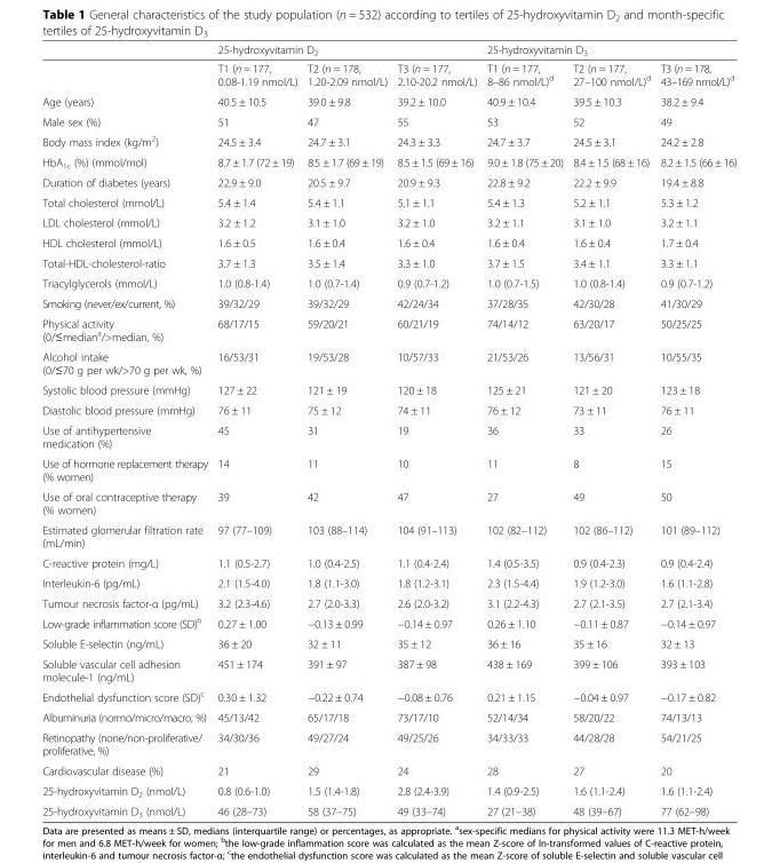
<table><thead><tr><td rowspan="2"></td><td colspan="3">25-hydroxyvitamin D<sub>2</sub></td><td colspan="3">25-hydroxyvitamin D<sub>3</sub></td></tr><tr><td>T1 (n = 177, 0.08-1.19 nmol/L)</td><td>T2 (n = 178, 1.20-2.09 nmol/L)</td><td>T3 (n = 177, 2.10-20.2 nmol/L)</td><td>T1 (n = 177, 8–86 nmol/L)<sup>d</sup></td><td>T2 (n = 177, 27–100 nmol/L)<sup>d</sup></td><td>T3 (n = 178, 43–169 nmol/L)<sup>d</sup></td></tr></thead><tbody><tr><td>Age (years)</td><td>40.5 ± 10.5</td><td>39.0 ± 9.8</td><td>39.2 ± 10.0</td><td>40.9 ± 10.4</td><td>39.5 ± 10.3</td><td>38.2 ± 9.4</td></tr><tr><td>Male sex (%)</td><td>51</td><td>47</td><td>55</td><td>53</td><td>52</td><td>49</td></tr><tr><td>Body mass index (kg/m<sup>2</sup>)</td><td>24.5 ± 3.4</td><td>24.7 ± 3.1</td><td>24.3 ± 3.3</td><td>24.7 ± 3.7</td><td>24.5 ± 3.1</td><td>24.2 ± 2.8</td></tr><tr><td>HbA<sub>1c</sub> (%) (mmol/mol)</td><td>8.7 ± 1.7 (72 ± 19)</td><td>8.5 ± 1.7 (69 ± 19)</td><td>8.5 ± 1.5 (69 ± 16)</td><td>9.0 ± 1.8 (75 ± 20)</td><td>8.4 ± 1.5 (68 ± 16)</td><td>8.2 ± 1.5 (66 ± 16)</td></tr><tr><td>Duration of diabetes (years)</td><td>22.9 ± 9.0</td><td>20.5 ± 9.7</td><td>20.9 ± 9.3</td><td>22.8 ± 9.2</td><td>22.2 ± 9.9</td><td>19.4 ± 8.8</td></tr><tr><td>Total cholesterol (mmol/L)</td><td>5.4 ± 1.4</td><td>5.4 ± 1.1</td><td>5.1 ± 1.1</td><td>5.4 ± 1.3</td><td>5.2 ± 1.1</td><td>5.3 ± 1.2</td></tr><tr><td>LDL cholesterol (mmol/L)</td><td>3.2 ± 1.2</td><td>3.1 ± 1.0</td><td>3.2 ± 1.0</td><td>3.2 ± 1.1</td><td>3.1 ± 1.0</td><td>3.2 ± 1.1</td></tr><tr><td>HDL cholesterol (mmol/L)</td><td>1.6 ± 0.5</td><td>1.6 ± 0.4</td><td>1.6 ± 0.4</td><td>1.6 ± 0.4</td><td>1.6 ± 0.4</td><td>1.7 ± 0.4</td></tr><tr><td>Total-HDL-cholesterol-ratio</td><td>3.7 ± 1.3</td><td>3.5 ± 1.4</td><td>3.3 ± 1.0</td><td>3.7 ± 1.5</td><td>3.4 ± 1.1</td><td>3.3 ± 1.1</td></tr><tr><td>Triacylglycerols (mmol/L)</td><td>1.0 (0.8-1.4)</td><td>1.0 (0.7-1.4)</td><td>0.9 (0.7-1.2)</td><td>1.0 (0.7-1.5)</td><td>1.0 (0.8-1.4)</td><td>0.9 (0.7-1.2)</td></tr><tr><td>Smoking (never/ex/current, %)</td><td>39/32/29</td><td>39/32/29</td><td>42/24/34</td><td>37/28/35</td><td>42/30/28</td><td>41/30/29</td></tr><tr><td>Physical activity (0/≤median<sup>a</sup>/&gt;median, %)</td><td>68/17/15</td><td>59/20/21</td><td>60/21/19</td><td>74/14/12</td><td>63/20/17</td><td>50/25/25</td></tr><tr><td>Alcohol intake (0/≤70 g per wk/&gt;70 g per wk, %)</td><td>16/53/31</td><td>19/53/28</td><td>10/57/33</td><td>21/53/26</td><td>13/56/31</td><td>10/55/35</td></tr><tr><td>Systolic blood pressure (mmHg)</td><td>127 ± 22</td><td>121 ± 19</td><td>120 ± 18</td><td>125 ± 21</td><td>121 ± 20</td><td>123 ± 18</td></tr><tr><td>Diastolic blood pressure (mmHg)</td><td>76 ± 11</td><td>75 ± 12</td><td>74 ± 11</td><td>76 ± 12</td><td>73 ± 11</td><td>76 ± 11</td></tr><tr><td>Use of antihypertensive medication (%)</td><td>45</td><td>31</td><td>19</td><td>36</td><td>33</td><td>26</td></tr><tr><td>Use of hormone replacement therapy (% women)</td><td>14</td><td>11</td><td>10</td><td>11</td><td>8</td><td>15</td></tr><tr><td>Use of oral contraceptive therapy (% women)</td><td>39</td><td>42</td><td>47</td><td>27</td><td>49</td><td>50</td></tr><tr><td>Estimated glomerular filtration rate (mL/min)</td><td>97 (77–109)</td><td>103 (88–114)</td><td>104 (91–113)</td><td>102 (82–112)</td><td>102 (86–112)</td><td>101 (89–112)</td></tr><tr><td>C-reactive protein (mg/L)</td><td>1.1 (0.5-2.7)</td><td>1.0 (0.4-2.5)</td><td>1.1 (0.4-2.4)</td><td>1.4 (0.5-3.5)</td><td>0.9 (0.4-2.3)</td><td>0.9 (0.4-2.4)</td></tr><tr><td>Interleukin-6 (pg/mL)</td><td>2.1 (1.5-4.0)</td><td>1.8 (1.1-3.0)</td><td>1.8 (1.2-3.1)</td><td>2.3 (1.5-4.4)</td><td>1.9 (1.2-3.0)</td><td>1.6 (1.1-2.8)</td></tr><tr><td>Tumour necrosis factor-α (pg/mL)</td><td>3.2 (2.3-4.6)</td><td>2.7 (2.0-3.3)</td><td>2.6 (2.0-3.2)</td><td>3.1 (2.2-4.3)</td><td>2.7 (2.1-3.5)</td><td>2.7 (2.1-3.4)</td></tr><tr><td>Low-grade inflammation score (SD)<sup>b</sup></td><td>0.27 ± 1.00</td><td>−0.13 ± 0.99</td><td>−0.14 ± 0.97</td><td>0.26 ± 1.10</td><td>−0.11 ± 0.87</td><td>−0.14 ± 0.97</td></tr><tr><td>Soluble E-selectin (ng/mL)</td><td>36 ± 20</td><td>32 ± 11</td><td>35 ± 12</td><td>36 ± 16</td><td>35 ± 16</td><td>32 ± 13</td></tr><tr><td>Soluble vascular cell adhesion molecule-1 (ng/mL)</td><td>451 ± 174</td><td>391 ± 97</td><td>387 ± 98</td><td>438 ± 169</td><td>399 ± 106</td><td>393 ± 103</td></tr><tr><td>Endothelial dysfunction score (SD)<sup>c</sup></td><td>0.30 ± 1.32</td><td>−0.22 ± 0.74</td><td>−0.08 ± 0.76</td><td>0.21 ± 1.15</td><td>−0.04 ± 0.97</td><td>−0.17 ± 0.82</td></tr><tr><td>Albuminuria (normo/micro/macro, %)</td><td>45/13/42</td><td>65/17/18</td><td>73/17/10</td><td>52/14/34</td><td>58/20/22</td><td>74/13/13</td></tr><tr><td>Retinopathy (none/non-proliferative/ proliferative, %)</td><td>34/30/36</td><td>49/27/24</td><td>49/25/26</td><td>34/33/33</td><td>44/28/28</td><td>54/21/25</td></tr><tr><td>Cardiovascular disease (%)</td><td>21</td><td>29</td><td>24</td><td>28</td><td>27</td><td>20</td></tr><tr><td>25-hydroxyvitamin D<sub>2</sub> (nmol/L)</td><td>0.8 (0.6-1.0)</td><td>1.5 (1.4-1.8)</td><td>2.8 (2.4-3.9)</td><td>1.4 (0.9-2.5)</td><td>1.6 (1.1-2.4)</td><td>1.6 (1.1-2.4)</td></tr><tr><td>25-hydroxyvitamin D<sub>3</sub> (nmol/L)</td><td>46 (28–73)</td><td>58 (37–75)</td><td>49 (33–74)</td><td>27 (21–38)</td><td>48 (39–67)</td><td>77 (62–98)</td></tr></tbody></table>